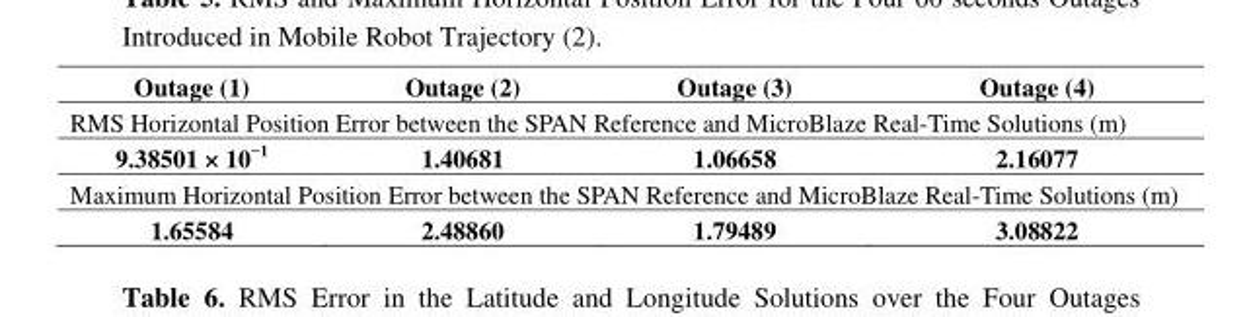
<table><thead><tr><td>Outage (1)</td><td>Outage (2)</td><td>Outage (3)</td><td>Outage (4)</td></tr></thead><tbody><tr><td colspan="4">RMS Horizontal Position Error between the SPAN Reference and MicroBlaze Real-Time Solutions (m)</td></tr><tr><td>9.38501 × 10<sup>−1</sup></td><td>1.40681</td><td>1.06658</td><td>2.16077</td></tr><tr><td colspan="4">Maximum Horizontal Position Error between the SPAN Reference and MicroBlaze Real-Time Solutions (m)</td></tr><tr><td>1.65584</td><td>2.48860</td><td>1.79489</td><td>3.08822</td></tr></tbody></table>